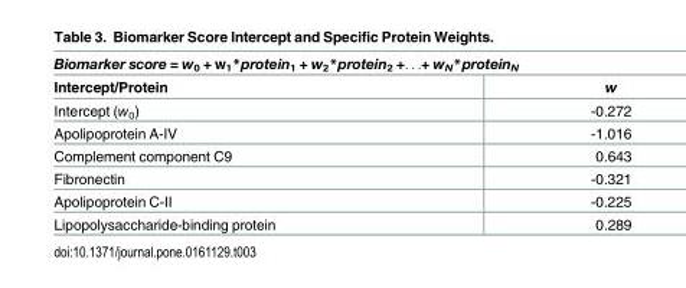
<table><thead><tr><td colspan="2">Biomarker score = w<sub>0</sub> + w<sub>1</sub>*protein<sub>1</sub> + w<sub>2</sub>*protein<sub>2</sub> +. . .+ w<sub>N</sub>*protein<sub>N</sub></td></tr><tr><td>Intercept/Protein</td><td>w</td></tr></thead><tbody><tr><td>Intercept (w<sub>0</sub>)</td><td>-0.272</td></tr><tr><td>Apolipoprotein A-IV</td><td>-1.016</td></tr><tr><td>Complement component C9</td><td>0.643</td></tr><tr><td>Fibronectin</td><td>-0.321</td></tr><tr><td>Apolipoprotein C-II</td><td>-0.225</td></tr><tr><td>Lipopolysaccharide-binding protein</td><td>0.289</td></tr></tbody></table>